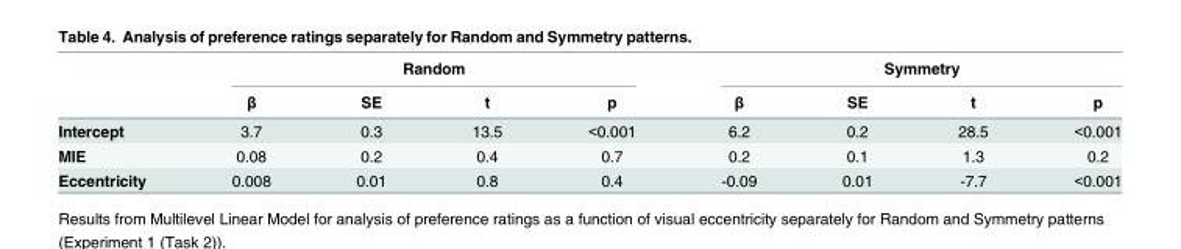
<table><thead><tr><td rowspan="2"></td><td colspan="4">Random</td><td colspan="4">Symmetry</td></tr><tr><td>β</td><td>SE</td><td>t</td><td>p</td><td>β</td><td>SE</td><td>t</td><td>p</td></tr></thead><tbody><tr><td>Intercept</td><td>3.7</td><td>0.3</td><td>13.5</td><td>&lt;0.001</td><td>6.2</td><td>0.2</td><td>28.5</td><td>&lt;0.001</td></tr><tr><td>MIE</td><td>0.08</td><td>0.2</td><td>0.4</td><td>0.7</td><td>0.2</td><td>0.1</td><td>1.3</td><td>0.2</td></tr><tr><td>Eccentricity</td><td>0.008</td><td>0.01</td><td>0.8</td><td>0.4</td><td>-0.09</td><td>0.01</td><td>-7.7</td><td>&lt;0.001</td></tr></tbody></table>